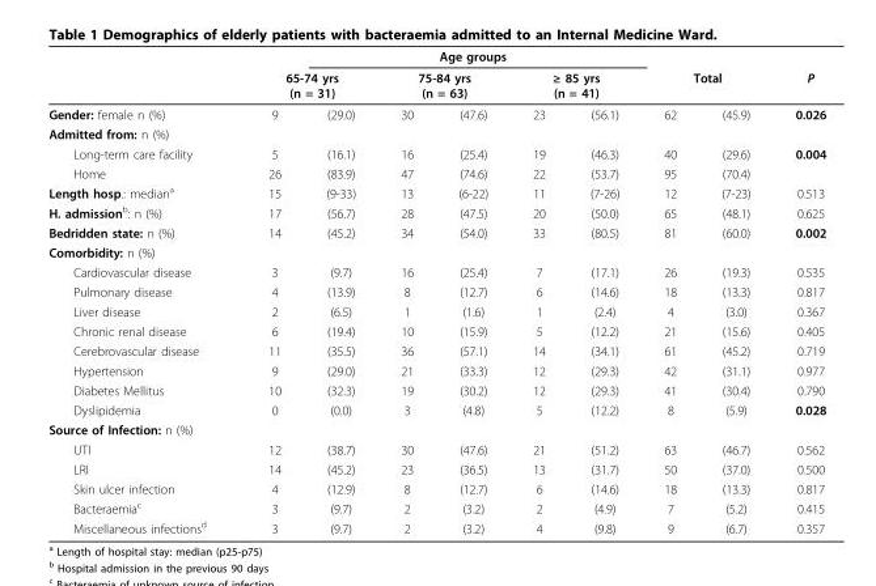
<table><thead><tr><td rowspan="3">Gender: female n (%)</td><td></td><td colspan="5">Age groups</td><td></td><td></td><td rowspan="3">P 0.026</td></tr><tr><td colspan="2">65-74 yrs (n = 31)</td><td colspan="2">75-84 yrs (n = 63)</td><td colspan="2">≥ 85 yrs (n = 41)</td><td colspan="2">Total</td></tr><tr><td>9</td><td>(29.0)</td><td>30</td><td>(47.6)</td><td>23</td><td>(56.1)</td><td>62</td><td>(45.9)</td></tr></thead><tbody><tr><td colspan="10">Admitted from: n (%)</td></tr><tr><td>Long-term care facility</td><td>5</td><td>(16.1)</td><td>16</td><td>(25.4)</td><td>19</td><td>(46.3)</td><td>40</td><td>(29.6)</td><td>0.004</td></tr><tr><td>Home</td><td>26</td><td>(83.9)</td><td>47</td><td>(74.6)</td><td>22</td><td>(53.7)</td><td>95</td><td>(70.4)</td><td></td></tr><tr><td>Length hosp.: median<sup>a</sup></td><td>15</td><td>(9-33)</td><td>13</td><td>(6-22)</td><td>11</td><td>(7-26)</td><td>12</td><td>(7-23)</td><td>0.513</td></tr><tr><td>H. admission<sup>b</sup>: n (%)</td><td>17</td><td>(56.7)</td><td>28</td><td>(47.5)</td><td>20</td><td>(50.0)</td><td>65</td><td>(48.1)</td><td>0.625</td></tr><tr><td>Bedridden state: n (%)</td><td>14</td><td>(45.2)</td><td>34</td><td>(54.0)</td><td>33</td><td>(80.5)</td><td>81</td><td>(60.0)</td><td>0.002</td></tr><tr><td colspan="10">Comorbidity: n (%)</td></tr><tr><td>Cardiovascular disease</td><td>3</td><td>(9.7)</td><td>16</td><td>(25.4)</td><td>7</td><td>(17.1)</td><td>26</td><td>(19.3)</td><td>0.535</td></tr><tr><td>Pulmonary disease</td><td>4</td><td>(13.9)</td><td>8</td><td>(12.7)</td><td>6</td><td>(14.6)</td><td>18</td><td>(13.3)</td><td>0.817</td></tr><tr><td>Liver disease</td><td>2</td><td>(6.5)</td><td>1</td><td>(1.6)</td><td>1</td><td>(2.4)</td><td>4</td><td>(3.0)</td><td>0.367</td></tr><tr><td>Chronic renal disease</td><td>6</td><td>(19.4)</td><td>10</td><td>(15.9)</td><td>5</td><td>(12.2)</td><td>21</td><td>(15.6)</td><td>0.405</td></tr><tr><td>Cerebrovascular disease</td><td>11</td><td>(35.5)</td><td>36</td><td>(57.1)</td><td>14</td><td>(34.1)</td><td>61</td><td>(45.2)</td><td>0.719</td></tr><tr><td>Hypertension</td><td>9</td><td>(29.0)</td><td>21</td><td>(33.3)</td><td>12</td><td>(29.3)</td><td>42</td><td>(31.1)</td><td>0.977</td></tr><tr><td>Diabetes Mellitus</td><td>10</td><td>(32.3)</td><td>19</td><td>(30.2)</td><td>12</td><td>(29.3)</td><td>41</td><td>(30.4)</td><td>0.790</td></tr><tr><td>Dyslipidemia</td><td>0</td><td>(0.0)</td><td>3</td><td>(4.8)</td><td>5</td><td>(12.2)</td><td>8</td><td>(5.9)</td><td>0.028</td></tr><tr><td colspan="10">Source of Infection: n (%)</td></tr><tr><td>UTI</td><td>12</td><td>(38.7)</td><td>30</td><td>(47.6)</td><td>21</td><td>(51.2)</td><td>63</td><td>(46.7)</td><td>0.562</td></tr><tr><td>LRI</td><td>14</td><td>(45.2)</td><td>23</td><td>(36.5)</td><td>13</td><td>(31.7)</td><td>50</td><td>(37.0)</td><td>0.500</td></tr><tr><td>Skin ulcer infection</td><td>4</td><td>(12.9)</td><td>8</td><td>(12.7)</td><td>6</td><td>(14.6)</td><td>18</td><td>(13.3)</td><td>0.817</td></tr><tr><td>Bacteraemia<sup>c</sup></td><td>3</td><td>(9.7)</td><td>2</td><td>(3.2)</td><td>2</td><td>(4.9)</td><td>7</td><td>(5.2)</td><td>0.415</td></tr><tr><td>Miscellaneous infections<sup>d</sup></td><td>3</td><td>(9.7)</td><td>2</td><td>(3.2)</td><td>4</td><td>(9.8)</td><td>9</td><td>(6.7)</td><td>0.357</td></tr></tbody></table>